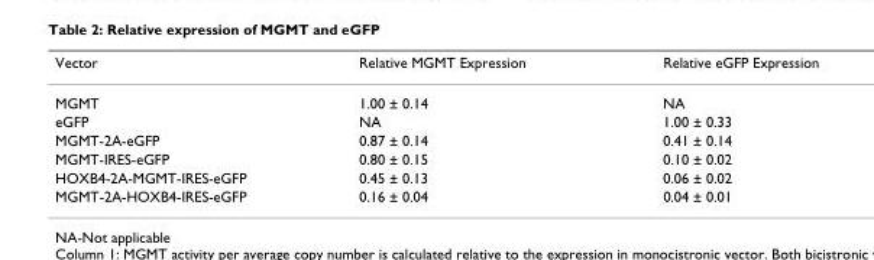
<table><thead><tr><td>Vector</td><td>Relative MGMT Expression</td><td>Relative eGFP Expression</td></tr></thead><tbody><tr><td>MGMT</td><td>1.00 ± 0.14</td><td>NA</td></tr><tr><td>eGFP</td><td>NA</td><td>1.00 ± 0.33</td></tr><tr><td>MGMT-2A-eGFP</td><td>0.87 ± 0.14</td><td>0.41 ± 0.14</td></tr><tr><td>MGMT-IRES-eGFP</td><td>0.80 ± 0.15</td><td>0.10 ± 0.02</td></tr><tr><td>HOXB4-2A-MGMT-IRES-eGFP</td><td>0.45 ± 0.13</td><td>0.06 ± 0.02</td></tr><tr><td>MGMT-2A-HOXB4-IRES-eGFP</td><td>0.16 ± 0.04</td><td>0.04 ± 0.01</td></tr></tbody></table>